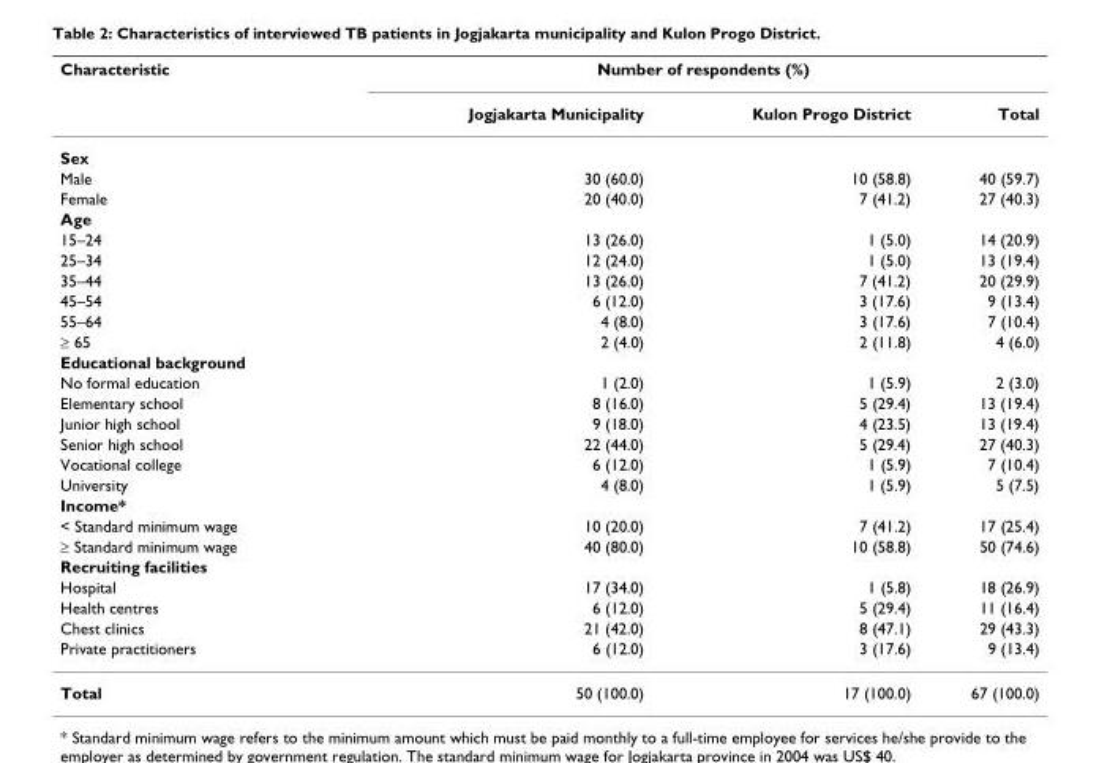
<table><thead><tr><td rowspan="2">Characteristic</td><td colspan="3">Number of respondents (%)</td></tr><tr><td>Jogjakarta Municipality</td><td>Kulon Progo District</td><td>Total</td></tr></thead><tbody><tr><td colspan="4">Sex</td></tr><tr><td>Male</td><td>30 (60.0)</td><td>10 (58.8)</td><td>40 (59.7)</td></tr><tr><td>Female</td><td>20 (40.0)</td><td>7 (41.2)</td><td>27 (40.3)</td></tr><tr><td colspan="4">Age</td></tr><tr><td>15–24</td><td>13 (26.0)</td><td>1 (5.0)</td><td>14 (20.9)</td></tr><tr><td>25–34</td><td>12 (24.0)</td><td>1 (5.0)</td><td>13 (19.4)</td></tr><tr><td>35–44</td><td>13 (26.0)</td><td>7 (41.2)</td><td>20 (29.9)</td></tr><tr><td>45–54</td><td>6 (12.0)</td><td>3 (17.6)</td><td>9 (13.4)</td></tr><tr><td>55–64</td><td>4 (8.0)</td><td>3 (17.6)</td><td>7 (10.4)</td></tr><tr><td>≥ 65</td><td>2 (4.0)</td><td>2 (11.8)</td><td>4 (6.0)</td></tr><tr><td colspan="4">Educational background</td></tr><tr><td>No formal education</td><td>1 (2.0)</td><td>1 (5.9)</td><td>2 (3.0)</td></tr><tr><td>Elementary school</td><td>8 (16.0)</td><td>5 (29.4)</td><td>13 (19.4)</td></tr><tr><td>Junior high school</td><td>9 (18.0)</td><td>4 (23.5)</td><td>13 (19.4)</td></tr><tr><td>Senior high school</td><td>22 (44.0)</td><td>5 (29.4)</td><td>27 (40.3)</td></tr><tr><td>Vocational college</td><td>6 (12.0)</td><td>1 (5.9)</td><td>7 (10.4)</td></tr><tr><td>University</td><td>4 (8.0)</td><td>1 (5.9)</td><td>5 (7.5)</td></tr><tr><td colspan="4">Income*</td></tr><tr><td>&lt; Standard minimum wage</td><td>10 (20.0)</td><td>7 (41.2)</td><td>17 (25.4)</td></tr><tr><td>≥ Standard minimum wage</td><td>40 (80.0)</td><td>10 (58.8)</td><td>50 (74.6)</td></tr><tr><td colspan="4">Recruiting facilities</td></tr><tr><td>Hospital</td><td>17 (34.0)</td><td>1 (5.8)</td><td>18 (26.9)</td></tr><tr><td>Health centres</td><td>6 (12.0)</td><td>5 (29.4)</td><td>11 (16.4)</td></tr><tr><td>Chest clinics</td><td>21 (42.0)</td><td>8 (47.1)</td><td>29 (43.3)</td></tr><tr><td>Private practitioners</td><td>6 (12.0)</td><td>3 (17.6)</td><td>9 (13.4)</td></tr><tr><td>Total</td><td>50 (100.0)</td><td>17 (100.0)</td><td>67 (100.0)</td></tr></tbody></table>